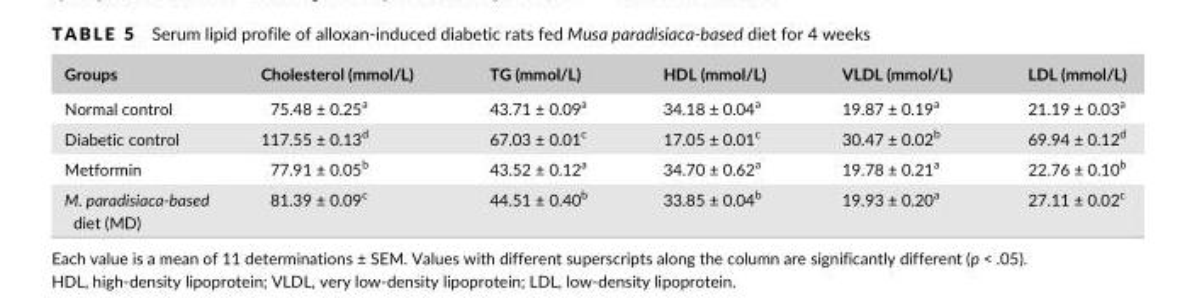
<table><thead><tr><td>Groups</td><td>Cholesterol (mmol/L)</td><td>TG (mmol/L)</td><td>HDL (mmol/L)</td><td>VLDL (mmol/L)</td><td>LDL (mmol/L)</td></tr></thead><tbody><tr><td>Normal control</td><td>75.48 ± 0.25<sup>a</sup></td><td>43.71 ± 0.09<sup>a</sup></td><td>34.18 ± 0.04<sup>a</sup></td><td>19.87 ± 0.19<sup>a</sup></td><td>21.19 ± 0.03<sup>a</sup></td></tr><tr><td>Diabetic control</td><td>117.55 ± 0.13<sup>d</sup></td><td>67.03 ± 0.01<sup>c</sup></td><td>17.05 ± 0.01<sup>c</sup></td><td>30.47 ± 0.02<sup>b</sup></td><td>69.94 ± 0.12<sup>d</sup></td></tr><tr><td>Metformin</td><td>77.91 ± 0.05<sup>b</sup></td><td>43.52 ± 0.12<sup>a</sup></td><td>34.70 ± 0.62<sup>a</sup></td><td>19.78 ± 0.21<sup>a</sup></td><td>22.76 ± 0.10<sup>b</sup></td></tr><tr><td>M. paradisiaca-based diet (MD)</td><td>81.39 ± 0.09<sup>c</sup></td><td>44.51 ± 0.40<sup>b</sup></td><td>33.85 ± 0.04<sup>b</sup></td><td>19.93 ± 0.20<sup>a</sup></td><td>27.11 ± 0.02<sup>c</sup></td></tr></tbody></table>